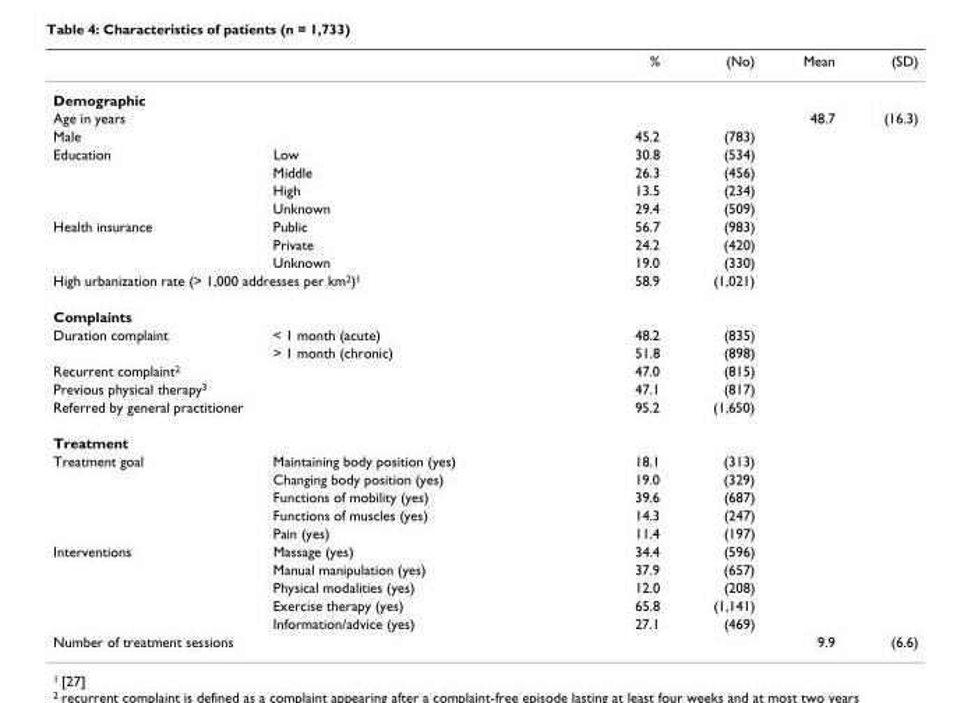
<table><thead><tr><td></td><td></td><td>%</td><td>(No)</td><td>Mean</td><td>(SD)</td></tr></thead><tbody><tr><td colspan="6">Demographic</td></tr><tr><td colspan="2">Age in years</td><td></td><td></td><td>48.7</td><td>(16.3)</td></tr><tr><td colspan="2">Male</td><td>45.2</td><td>(783)</td><td></td><td></td></tr><tr><td rowspan="4">Education</td><td>Low</td><td>30.8</td><td>(534)</td><td></td><td></td></tr><tr><td>Middle</td><td>26.3</td><td>(456)</td><td></td><td></td></tr><tr><td>High</td><td>13.5</td><td>(234)</td><td></td><td></td></tr><tr><td>Unknown</td><td>29.4</td><td>(509)</td><td></td><td></td></tr><tr><td rowspan="3">Health insurance</td><td>Public</td><td>56.7</td><td>(983)</td><td></td><td></td></tr><tr><td>Private</td><td>24.2</td><td>(420)</td><td></td><td></td></tr><tr><td>Unknown</td><td>19.0</td><td>(330)</td><td></td><td></td></tr><tr><td colspan="2">High urbanization rate (&gt; 1,000 addresses per km<sup>2</sup>)<sup>1</sup></td><td>58.9</td><td>(1,021)</td><td></td><td></td></tr><tr><td colspan="6">Complaints</td></tr><tr><td rowspan="2">Duration complaint</td><td>&lt; 1 month (acute)</td><td>48.2</td><td>(835)</td><td></td><td></td></tr><tr><td>&gt; 1 month (chronic)</td><td>51.8</td><td>(898)</td><td></td><td></td></tr><tr><td colspan="2">Recurrent complaint<sup>2</sup></td><td>47.0</td><td>(815)</td><td></td><td></td></tr><tr><td colspan="2">Previous physical therapy<sup>3</sup></td><td>47.1</td><td>(817)</td><td></td><td></td></tr><tr><td colspan="2">Referred by general practitioner</td><td>95.2</td><td>(1,650)</td><td></td><td></td></tr><tr><td colspan="6">Treatment</td></tr><tr><td rowspan="5">Treatment goal</td><td>Maintaining body position (yes)</td><td>18.1</td><td>(313)</td><td></td><td></td></tr><tr><td>Changing body position (yes)</td><td>19.0</td><td>(329)</td><td></td><td></td></tr><tr><td>Functions of mobility (yes)</td><td>39.6</td><td>(687)</td><td></td><td></td></tr><tr><td>Functions of muscles (yes)</td><td>14.3</td><td>(247)</td><td></td><td></td></tr><tr><td>Pain (yes)</td><td>11.4</td><td>(197)</td><td></td><td></td></tr><tr><td rowspan="5">Interventions</td><td>Massage (yes)</td><td>34.4</td><td>(596)</td><td></td><td></td></tr><tr><td>Manual manipulation (yes)</td><td>37.9</td><td>(657)</td><td></td><td></td></tr><tr><td>Physical modalities (yes)</td><td>12.0</td><td>(208)</td><td></td><td></td></tr><tr><td>Exercise therapy (yes)</td><td>65.8</td><td>(1,141)</td><td></td><td></td></tr><tr><td>Information/advice (yes)</td><td>27.1</td><td>(469)</td><td></td><td></td></tr><tr><td colspan="2">Number of treatment sessions</td><td></td><td></td><td>9.9</td><td>(6.6)</td></tr></tbody></table>